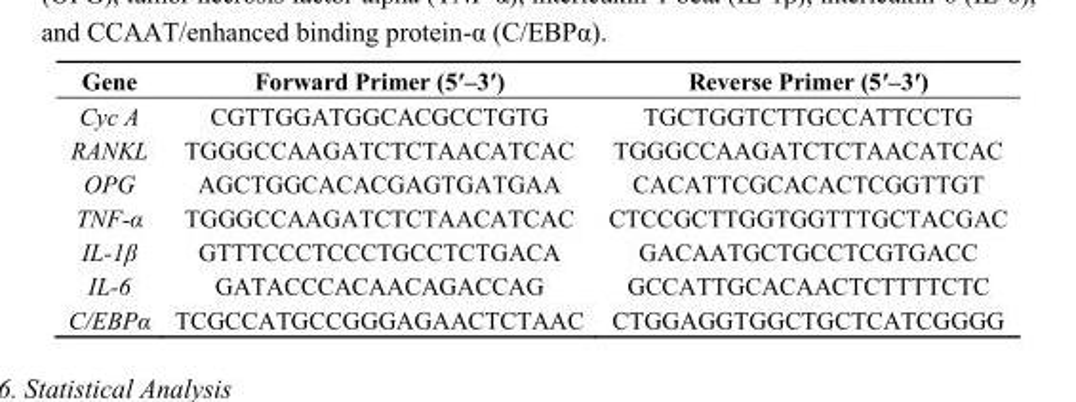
<table><thead><tr><td>Gene</td><td>Forward Primer (5′–3′)</td><td>Reverse Primer (5′–3′)</td></tr></thead><tbody><tr><td>Cyc A</td><td>CGTTGGATGGCACGCCTGTG</td><td>TGCTGGTCTTGCCATTCCTG</td></tr><tr><td>RANKL</td><td>TGGGCCAAGATCTCTAACATCAC</td><td>TGGGCCAAGATCTCTAACATCAC</td></tr><tr><td>OPG</td><td>AGCTGGCACACGAGTGATGAA</td><td>CACATTCGCACACTCGGTTGT</td></tr><tr><td>TNF-α</td><td>TGGGCCAAGATCTCTAACATCAC</td><td>CTCCGCTTGGTGGTTTGCTACGAC</td></tr><tr><td>IL-1β</td><td>GTTTCCCTCCCTGCCTCTGACA</td><td>GACAATGCTGCCTCGTGACC</td></tr><tr><td>IL-6</td><td>GATACCCACAACAGACCAG</td><td>GCCATTGCACAACTCTTTTCTC</td></tr><tr><td>C/EBPα</td><td>TCGCCATGCCGGGAGAACTCTAAC</td><td>CTGGAGGTGGCTGCTCATCGGGG</td></tr></tbody></table>